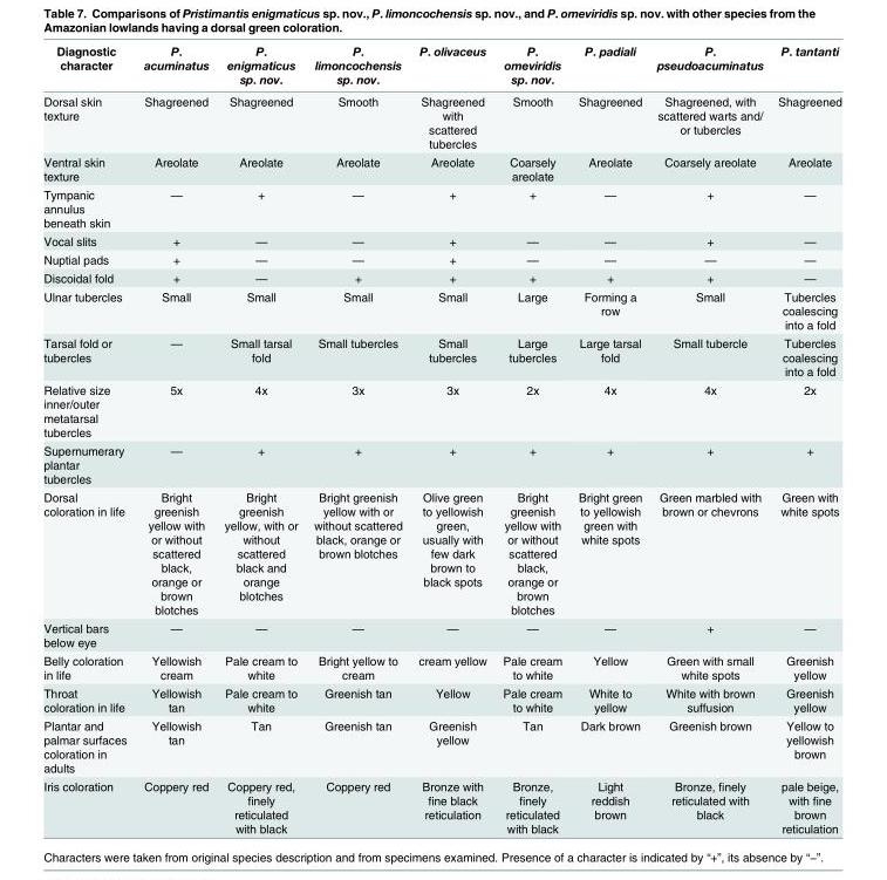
<table><thead><tr><td>Diagnostic character</td><td>P. acuminatus</td><td>P. enigmaticus sp. nov.</td><td>P. limoncochensis sp. nov.</td><td>P. olivaceus</td><td>P. omeviridis sp. nov.</td><td>P. padiali</td><td>P. pseudoacuminatus</td><td>P. tantanti</td></tr></thead><tbody><tr><td>Dorsal skin texture</td><td>Shagreened</td><td>Shagreened</td><td>Smooth</td><td>Shagreened with scattered tubercles</td><td>Smooth</td><td>Shagreened</td><td>Shagreened, with scattered warts and/ or tubercles</td><td>Shagreened</td></tr><tr><td>Ventral skin texture</td><td>Areolate</td><td>Areolate</td><td>Areolate</td><td>Areolate</td><td>Coarsely areolate</td><td>Areolate</td><td>Coarsely areolate</td><td>Areolate</td></tr><tr><td>Tympanic annulus beneath skin</td><td>—</td><td>+</td><td>—</td><td>+</td><td>+</td><td>—</td><td>+</td><td>—</td></tr><tr><td>Vocal slits</td><td>+</td><td>—</td><td>—</td><td>+</td><td>—</td><td>—</td><td>+</td><td>—</td></tr><tr><td>Nuptial pads</td><td>+</td><td>—</td><td>—</td><td>+</td><td>—</td><td>—</td><td>—</td><td>—</td></tr><tr><td>Discoidal fold</td><td>+</td><td>—</td><td>+</td><td>+</td><td>+</td><td>+</td><td>+</td><td>—</td></tr><tr><td>Ulnar tubercles</td><td>Small</td><td>Small</td><td>Small</td><td>Small</td><td>Large</td><td>Forming a row</td><td>Small</td><td>Tubercles coalescing into a fold</td></tr><tr><td>Tarsal fold or tubercles</td><td>—</td><td>Small tarsal fold</td><td>Small tubercles</td><td>Small tubercles</td><td>Large tubercles</td><td>Large tarsal fold</td><td>Small tubercle</td><td>Tubercles coalescing into a fold</td></tr><tr><td>Relative size inner/outer metatarsal tubercles</td><td>5x</td><td>4x</td><td>3x</td><td>3x</td><td>2x</td><td>4x</td><td>4x</td><td>2x</td></tr><tr><td>Supernumerary plantar tubercles</td><td>—</td><td>+</td><td>+</td><td>+</td><td>+</td><td>+</td><td>+</td><td>+</td></tr><tr><td>Dorsal coloration in life</td><td>Bright greenish yellow with or without scattered black, orange or brown blotches</td><td>Bright greenish yellow, with or without scattered black and orange blotches</td><td>Bright greenish yellow with or without scattered black, orange or brown blotches</td><td>Olive green to yellowish green, usually with few dark brown to black spots</td><td>Bright greenish yellow with or without scattered black, orange or brown blotches</td><td>Bright green to yellowish green with white spots</td><td>Green marbled with brown or chevrons</td><td>Green with white spots</td></tr><tr><td>Vertical bars below eye</td><td>—</td><td>—</td><td>—</td><td>—</td><td>—</td><td>—</td><td>+</td><td>—</td></tr><tr><td>Belly coloration in life</td><td>Yellowish cream</td><td>Pale cream to white</td><td>Bright yellow to cream</td><td>cream yellow</td><td>Pale cream to white</td><td>Yellow</td><td>Green with small white spots</td><td>Greenish yellow</td></tr><tr><td>Throat coloration in life</td><td>Yellowish tan</td><td>Pale cream to white</td><td>Greenish tan</td><td>Yellow</td><td>Pale cream to white</td><td>White to yellow</td><td>White with brown suffusion</td><td>Greenish yellow</td></tr><tr><td>Plantar and palmar surfaces coloration in adults</td><td>Yellowish tan</td><td>Tan</td><td>Greenish tan</td><td>Greenish yellow</td><td>Tan</td><td>Dark brown</td><td>Greenish brown</td><td>Yellow to yellowish brown</td></tr><tr><td>Iris coloration</td><td>Coppery red</td><td>Coppery red, finely reticulated with black</td><td>Coppery red</td><td>Bronze with fine black reticulation</td><td>Bronze, finely reticulated with black</td><td>Light reddish brown</td><td>Bronze, finely reticulated with black</td><td>pale beige, with fine brown reticulation</td></tr></tbody></table>